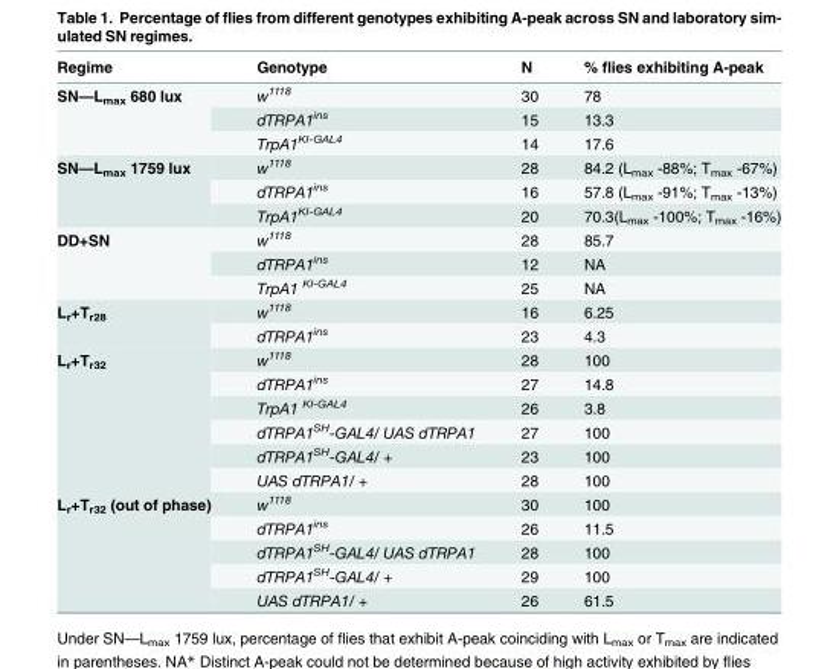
<table><thead><tr><td>Regime</td><td>Genotype</td><td>N</td><td>% flies exhibiting A-peak</td></tr></thead><tbody><tr><td rowspan="3">SN—L<sub>max</sub> 680 lux</td><td>w<sup>1118</sup></td><td>30</td><td>78</td></tr><tr><td>dTRPA1<sup>ins</sup></td><td>15</td><td>13.3</td></tr><tr><td>TrpA1<sup>KI-GAL4</sup></td><td>14</td><td>17.6</td></tr><tr><td rowspan="3">SN—L<sub>max</sub> 1759 lux</td><td>w<sup>1118</sup></td><td>28</td><td>84.2 (L<sub>max</sub> -88%; T<sub>max</sub> -67%)</td></tr><tr><td>dTRPA1<sup>ins</sup></td><td>16</td><td>57.8 (L<sub>max</sub> -91%; T<sub>max</sub> -13%)</td></tr><tr><td>TrpA1<sup>KI-GAL4</sup></td><td>20</td><td>70.3(L<sub>max</sub> -100%; T<sub>max</sub> -16%)</td></tr><tr><td rowspan="3">DD+SN</td><td>w<sup>1118</sup></td><td>28</td><td>85.7</td></tr><tr><td>dTRPA1<sup>ins</sup></td><td>12</td><td>NA</td></tr><tr><td>TrpA1 <sup>KI-GAL4</sup></td><td>25</td><td>NA</td></tr><tr><td rowspan="2">L<sub>r</sub>+T<sub>r28</sub></td><td>w<sup>1118</sup></td><td>16</td><td>6.25</td></tr><tr><td>dTRPA1<sup>ins</sup></td><td>23</td><td>4.3</td></tr><tr><td rowspan="6">L<sub>r</sub>+T<sub>r32</sub></td><td>w<sup>1118</sup></td><td>28</td><td>100</td></tr><tr><td>dTRPA1<sup>ins</sup></td><td>27</td><td>14.8</td></tr><tr><td>TrpA1 <sup>KI-GAL4</sup></td><td>26</td><td>3.8</td></tr><tr><td>dTRPA1<sup>SH</sup>-GAL4/ UAS dTRPA1</td><td>27</td><td>100</td></tr><tr><td>dTRPA1<sup>SH</sup>-GAL4/ +</td><td>23</td><td>100</td></tr><tr><td>UAS dTRPA1/ +</td><td>28</td><td>100</td></tr><tr><td rowspan="5">L<sub>r</sub>+T<sub>r32</sub> (out of phase)</td><td>w<sup>1118</sup></td><td>30</td><td>100</td></tr><tr><td>dTRPA1<sup>ins</sup></td><td>26</td><td>11.5</td></tr><tr><td>dTRPA1<sup>SH</sup>-GAL4/ UAS dTRPA1</td><td>28</td><td>100</td></tr><tr><td>dTRPA1<sup>SH</sup>-GAL4/ +</td><td>29</td><td>100</td></tr><tr><td>UAS dTRPA1/ +</td><td>26</td><td>61.5</td></tr></tbody></table>